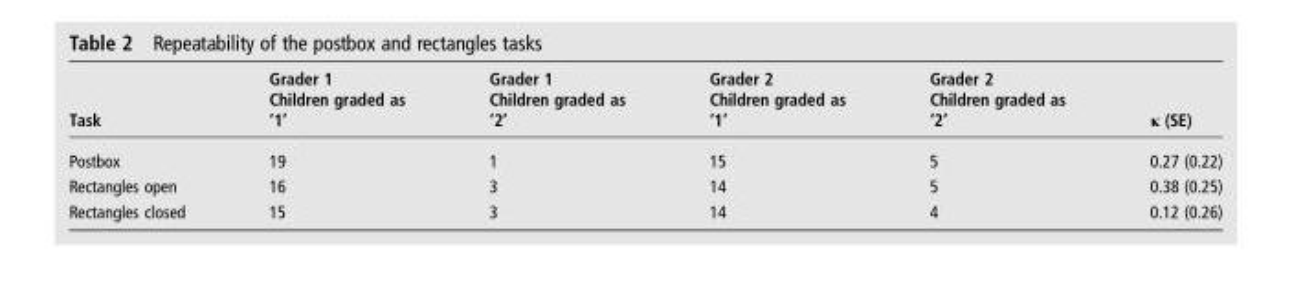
<table><thead><tr><td>Task</td><td>Grader 1 Children graded as ‘1’</td><td>Grader 1 Children graded as ‘2’</td><td>Grader 2 Children graded as ‘1’</td><td>Grader 2 Children graded as ‘2’</td><td>κ (SE)</td></tr></thead><tbody><tr><td>Postbox</td><td>19</td><td>1</td><td>15</td><td>5</td><td>0.27 (0.22)</td></tr><tr><td>Rectangles open</td><td>16</td><td>3</td><td>14</td><td>5</td><td>0.38 (0.25)</td></tr><tr><td>Rectangles closed</td><td>15</td><td>3</td><td>14</td><td>4</td><td>0.12 (0.26)</td></tr></tbody></table>